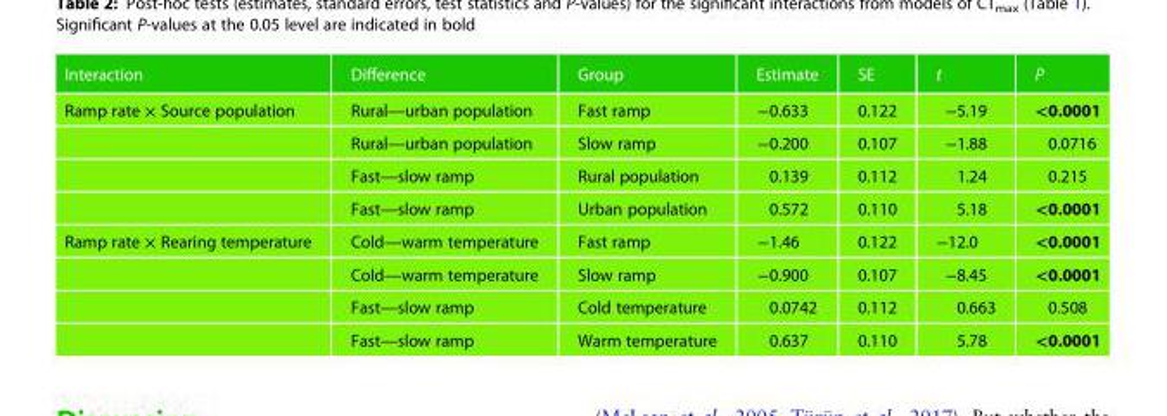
<table><thead><tr><td>Interaction</td><td>Difference</td><td>Group</td><td>Estimate</td><td>SE</td><td>t</td><td>P</td></tr></thead><tbody><tr><td rowspan="4">Ramp rate × Source population</td><td>Rural—urban population</td><td>Fast ramp</td><td>−0.633</td><td>0.122</td><td>−5.19</td><td>&lt;0.0001</td></tr><tr><td>Rural—urban population</td><td>Slow ramp</td><td>−0.200</td><td>0.107</td><td>−1.88</td><td>0.0716</td></tr><tr><td>Fast—slow ramp</td><td>Rural population</td><td>0.139</td><td>0.112</td><td>1.24</td><td>0.215</td></tr><tr><td>Fast—slow ramp</td><td>Urban population</td><td>0.572</td><td>0.110</td><td>5.18</td><td>&lt;0.0001</td></tr><tr><td rowspan="4">Ramp rate × Rearing temperature</td><td>Cold—warm temperature</td><td>Fast ramp</td><td>−1.46</td><td>0.122</td><td>−12.0</td><td>&lt;0.0001</td></tr><tr><td>Cold—warm temperature</td><td>Slow ramp</td><td>−0.900</td><td>0.107</td><td>−8.45</td><td>&lt;0.0001</td></tr><tr><td>Fast—slow ramp</td><td>Cold temperature</td><td>0.0742</td><td>0.112</td><td>0.663</td><td>0.508</td></tr><tr><td>Fast—slow ramp</td><td>Warm temperature</td><td>0.637</td><td>0.110</td><td>5.78</td><td>&lt;0.0001</td></tr></tbody></table>